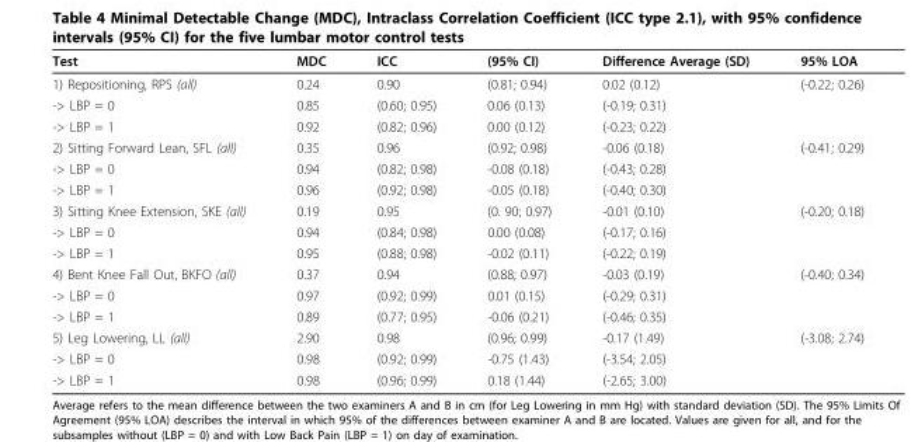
<table><thead><tr><td>Test</td><td>MDC</td><td>ICC</td><td>(95% CI)</td><td>Difference Average (SD)</td><td>95% LOA</td></tr></thead><tbody><tr><td>1) Repositioning, RPS (all)</td><td>0.24</td><td>0.90</td><td>(0.81; 0.94)</td><td>0.02 (0.12)</td><td>(-0.22; 0.26)</td></tr><tr><td>-&gt; LBP = 0</td><td>0.85</td><td>(0.60; 0.95)</td><td>0.06 (0.13)</td><td>(-0.19; 0.31)</td><td></td></tr><tr><td>-&gt; LBP = 1</td><td>0.92</td><td>(0.82; 0.96)</td><td>0.00 (0.12)</td><td>(-0.23; 0.22)</td><td></td></tr><tr><td>2) Sitting Forward Lean, SFL (all)</td><td>0.35</td><td>0.96</td><td>(0.92; 0.98)</td><td>-0.06 (0.18)</td><td>(-0.41; 0.29)</td></tr><tr><td>-&gt; LBP = 0</td><td>0.94</td><td>(0.82; 0.98)</td><td>-0.08 (0.18)</td><td>(-0.43; 0.28)</td><td></td></tr><tr><td>-&gt; LBP = 1</td><td>0.96</td><td>(0.92; 0.98)</td><td>-0.05 (0.18)</td><td>(-0.40; 0.30)</td><td></td></tr><tr><td>3) Sitting Knee Extension, SKE (all)</td><td>0.19</td><td>0.95</td><td>(0. 90; 0.97)</td><td>-0.01 (0.10)</td><td>(-0.20; 0.18)</td></tr><tr><td>-&gt; LBP = 0</td><td>0.94</td><td>(0.84; 0.98)</td><td>0.00 (0.08)</td><td>(-0.17; 0.16)</td><td></td></tr><tr><td>-&gt; LBP = 1</td><td>0.95</td><td>(0.88; 0.98)</td><td>-0.02 (0.11)</td><td>(-0.22; 0.19)</td><td></td></tr><tr><td>4) Bent Knee Fall Out, BKFO (all)</td><td>0.37</td><td>0.94</td><td>(0.88; 0.97)</td><td>-0.03 (0.19)</td><td>(-0.40; 0.34)</td></tr><tr><td>-&gt; LBP = 0</td><td>0.97</td><td>(0.92; 0.99)</td><td>0.01 (0.15)</td><td>(-0.29; 0.31)</td><td></td></tr><tr><td>-&gt; LBP = 1</td><td>0.89</td><td>(0.77; 0.95)</td><td>-0.06 (0.21)</td><td>(-0.46; 0.35)</td><td></td></tr><tr><td>5) Leg Lowering, LL (all)</td><td>2.90</td><td>0.98</td><td>(0.96; 0.99)</td><td>-0.17 (1.49)</td><td>(-3.08; 2.74)</td></tr><tr><td>-&gt; LBP = 0</td><td>0.98</td><td>(0.92; 0.99)</td><td>-0.75 (1.43)</td><td>(-3.54; 2.05)</td><td></td></tr><tr><td>-&gt; LBP = 1</td><td>0.98</td><td>(0.96; 0.99)</td><td>0.18 (1.44)</td><td>(-2.65; 3.00)</td><td></td></tr></tbody></table>